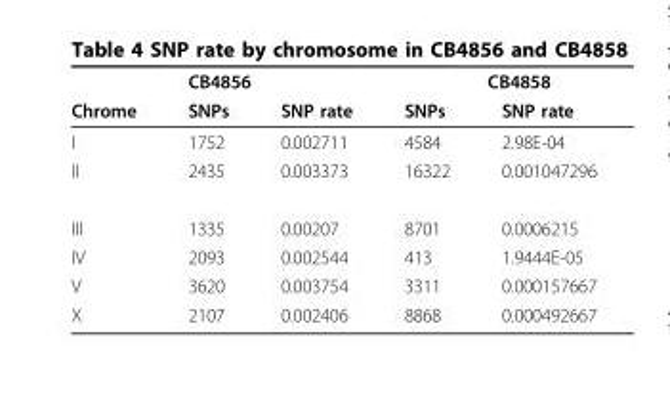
<table><thead><tr><td rowspan="2">Chrome</td><td colspan="2">CB4856</td><td colspan="2">CB4858</td></tr><tr><td>SNPs</td><td>SNP rate</td><td>SNPs</td><td>SNP rate</td></tr></thead><tbody><tr><td>I</td><td>1752</td><td>0.002711</td><td>4584</td><td>2.98E-04</td></tr><tr><td>II</td><td>2435</td><td>0.003373</td><td>16322</td><td>0.001047296</td></tr><tr><td>III</td><td>1335</td><td>0.00207</td><td>8701</td><td>0.0006215</td></tr><tr><td>IV</td><td>2093</td><td>0.002544</td><td>413</td><td>1.9444E-05</td></tr><tr><td>V</td><td>3620</td><td>0.003754</td><td>3311</td><td>0.000157667</td></tr><tr><td>X</td><td>2107</td><td>0.002406</td><td>8868</td><td>0.000492667</td></tr></tbody></table>